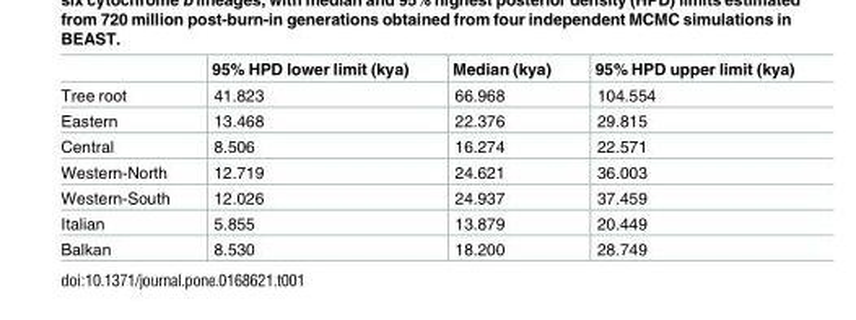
<table><thead><tr><td></td><td>95% HPD lower limit (kya)</td><td>Median (kya)</td><td>95% HPD upper limit (kya)</td></tr></thead><tbody><tr><td>Tree root</td><td>41.823</td><td>66.968</td><td>104.554</td></tr><tr><td>Eastern</td><td>13.468</td><td>22.376</td><td>29.815</td></tr><tr><td>Central</td><td>8.506</td><td>16.274</td><td>22.571</td></tr><tr><td>Western-North</td><td>12.719</td><td>24.621</td><td>36.003</td></tr><tr><td>Western-South</td><td>12.026</td><td>24.937</td><td>37.459</td></tr><tr><td>Italian</td><td>5.855</td><td>13.879</td><td>20.449</td></tr><tr><td>Balkan</td><td>8.530</td><td>18.200</td><td>28.749</td></tr></tbody></table>